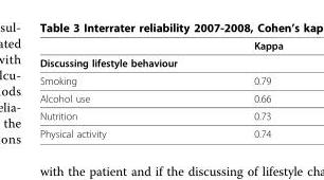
<table><thead><tr><td></td><td>Kappa</td></tr></thead><tbody><tr><td colspan="2">Discussing lifestyle behaviour</td></tr><tr><td>Smoking</td><td>0.79</td></tr><tr><td>Alcohol use</td><td>0.66</td></tr><tr><td>Nutrition</td><td>0.73</td></tr><tr><td>Physical activity</td><td>0.74</td></tr></tbody></table>